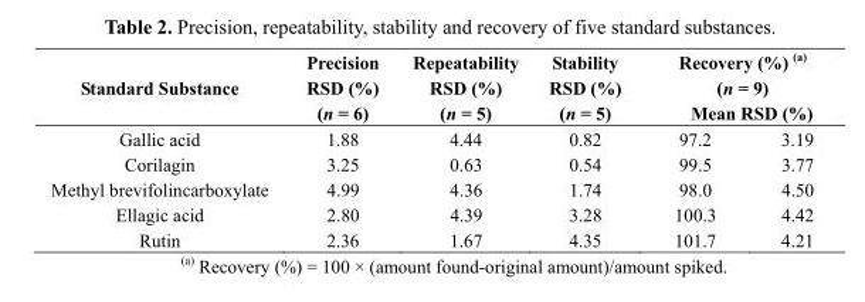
<table><thead><tr><td rowspan="2">Standard Substance Gallic acid</td><td rowspan="2">Precision RSD (%) (n = 6) 1.88</td><td rowspan="2">Repeatability RSD (%) (n = 5) 4.44</td><td rowspan="2">Stability RSD (%) (n = 5) 0.82</td><td colspan="2">Recovery (%) (a) (n = 9) Mean RSD (%)</td></tr><tr><td>97.2</td><td>3.19</td></tr></thead><tbody><tr><td>Corilagin</td><td>3.25</td><td>0.63</td><td>0.54</td><td>99.5</td><td>3.77</td></tr><tr><td>Methyl brevifolincarboxylate</td><td>4.99</td><td>4.36</td><td>1.74</td><td>98.0</td><td>4.50</td></tr><tr><td>Ellagic acid</td><td>2.80</td><td>4.39</td><td>3.28</td><td>100.3</td><td>4.42</td></tr><tr><td>Rutin</td><td>2.36</td><td>1.67</td><td>4.35</td><td>101.7</td><td>4.21</td></tr></tbody></table>